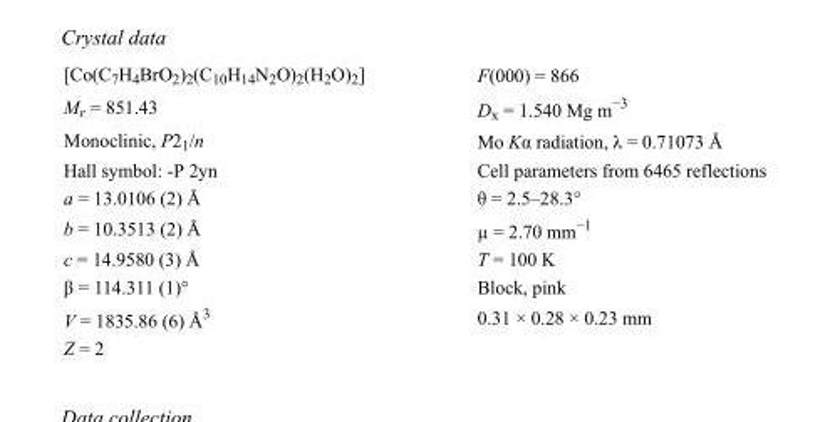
<table><tbody><tr><td>[Co(C<sub>7</sub>H<sub>4</sub>BrO<sub>2</sub>)<sub>2</sub>(C<sub>10</sub>H<sub>14</sub>N<sub>2</sub>O)<sub>2</sub>(H<sub>2</sub>O)<sub>2</sub>]</td><td>F(000) = 866</td></tr><tr><td>M<sub>r</sub> = 851.43</td><td>D<sub>x</sub> = 1.540 Mg m<sup>−3</sup></td></tr><tr><td>Monoclinic, P2<sub>1</sub>/n</td><td>Mo Kα radiation, λ = 0.71073 Å</td></tr><tr><td>Hall symbol: -P 2yn</td><td>Cell parameters from 6465 reflections</td></tr><tr><td>a = 13.0106 (2) Å</td><td>θ = 2.5–28.3°</td></tr><tr><td>b = 10.3513 (2) Å</td><td>µ = 2.70 mm<sup>−1</sup></td></tr><tr><td>c = 14.9580 (3) Å</td><td>T = 100 K</td></tr><tr><td>β = 114.311 (1)°</td><td>Block, pink</td></tr><tr><td>V = 1835.86 (6) Å<sup>3</sup></td><td>0.31 × 0.28 × 0.23 mm</td></tr><tr><td>Z = 2</td><td></td></tr></tbody></table>